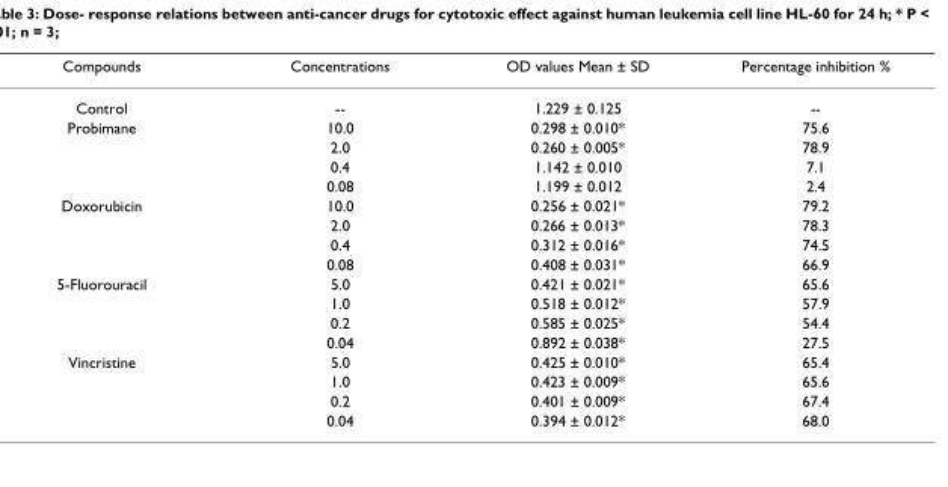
<table><thead><tr><td>Compounds</td><td>Concentrations</td><td>OD values Mean ± SD</td><td>Percentage inhibition %</td></tr></thead><tbody><tr><td>Control</td><td>--</td><td>1.229 ± 0.125</td><td>--</td></tr><tr><td rowspan="4">Probimane</td><td>10.0</td><td>0.298 ± 0.010*</td><td>75.6</td></tr><tr><td>2.0</td><td>0.260 ± 0.005*</td><td>78.9</td></tr><tr><td>0.4</td><td>1.142 ± 0.010</td><td>7.1</td></tr><tr><td>0.08</td><td>1.199 ± 0.012</td><td>2.4</td></tr><tr><td rowspan="4">Doxorubicin</td><td>10.0</td><td>0.256 ± 0.021*</td><td>79.2</td></tr><tr><td>2.0</td><td>0.266 ± 0.013*</td><td>78.3</td></tr><tr><td>0.4</td><td>0.312 ± 0.016*</td><td>74.5</td></tr><tr><td>0.08</td><td>0.408 ± 0.031*</td><td>66.9</td></tr><tr><td rowspan="4">5-Fluorouracil</td><td>5.0</td><td>0.421 ± 0.021*</td><td>65.6</td></tr><tr><td>1.0</td><td>0.518 ± 0.012*</td><td>57.9</td></tr><tr><td>0.2</td><td>0.585 ± 0.025*</td><td>54.4</td></tr><tr><td>0.04</td><td>0.892 ± 0.038*</td><td>27.5</td></tr><tr><td rowspan="4">Vincristine</td><td>5.0</td><td>0.425 ± 0.010*</td><td>65.4</td></tr><tr><td>1.0</td><td>0.423 ± 0.009*</td><td>65.6</td></tr><tr><td>0.2</td><td>0.401 ± 0.009*</td><td>67.4</td></tr><tr><td>0.04</td><td>0.394 ± 0.012*</td><td>68.0</td></tr></tbody></table>